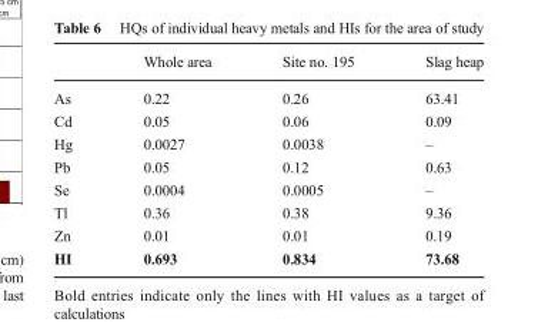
<table><thead><tr><td></td><td>Whole area</td><td>Site no. 195</td><td>Slag heap</td></tr></thead><tbody><tr><td>As</td><td>0.22</td><td>0.26</td><td>63.41</td></tr><tr><td>Cd</td><td>0.05</td><td>0.06</td><td>0.09</td></tr><tr><td>Hg</td><td>0.0027</td><td>0.0038</td><td>–</td></tr><tr><td>Pb</td><td>0.05</td><td>0.12</td><td>0.63</td></tr><tr><td>Se</td><td>0.0004</td><td>0.0005</td><td>–</td></tr><tr><td>Tl</td><td>0.36</td><td>0.38</td><td>9.36</td></tr><tr><td>Zn</td><td>0.01</td><td>0.01</td><td>0.19</td></tr><tr><td>HI</td><td>0.693</td><td>0.834</td><td>73.68</td></tr></tbody></table>